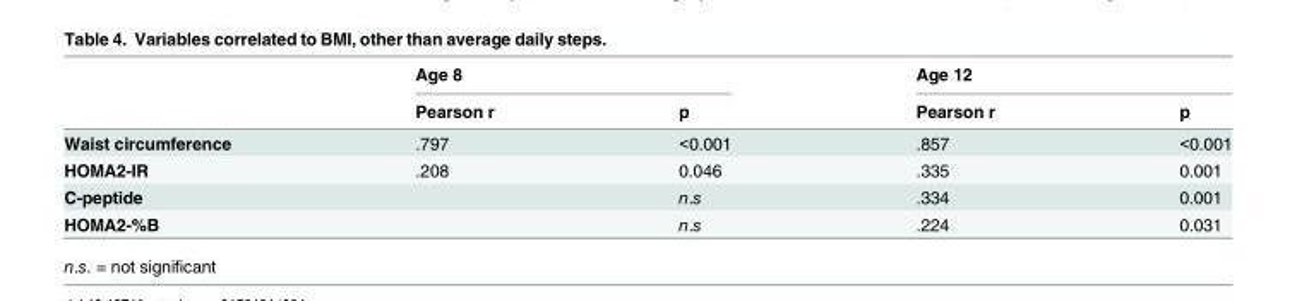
<table><thead><tr><td rowspan="2"></td><td colspan="2">Age 8</td><td colspan="2">Age 12</td></tr><tr><td>Pearson r</td><td>p</td><td>Pearson r</td><td>p</td></tr></thead><tbody><tr><td>Waist circumference</td><td>.797</td><td>&lt;0.001</td><td>.857</td><td>&lt;0.001</td></tr><tr><td>HOMA2-IR</td><td>.208</td><td>0.046</td><td>.335</td><td>0.001</td></tr><tr><td>C-peptide</td><td></td><td>n.s</td><td>.334</td><td>0.001</td></tr><tr><td>HOMA2-%B</td><td></td><td>n.s</td><td>.224</td><td>0.031</td></tr></tbody></table>